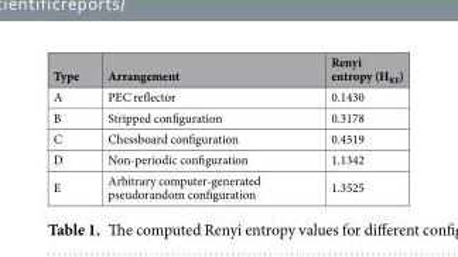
<table><thead><tr><td>Type</td><td>Arrangement</td><td>Renyi entropy (H<sub>RE</sub>)</td></tr></thead><tbody><tr><td>A</td><td>PEC reflector</td><td>0.1430</td></tr><tr><td>B</td><td>Stripped configuration</td><td>0.3178</td></tr><tr><td>C</td><td>Chessboard configuration</td><td>0.4519</td></tr><tr><td>D</td><td>Non-periodic configuration</td><td>1.1342</td></tr><tr><td>E</td><td>Arbitrary computer-generated pseudorandom configuration</td><td>1.3525</td></tr></tbody></table>